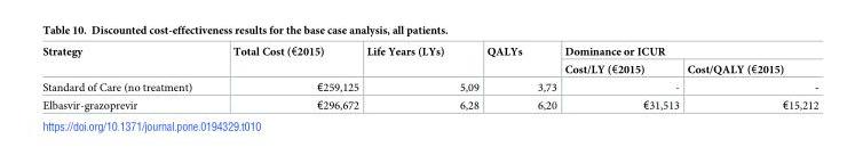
<table><thead><tr><td rowspan="2">Strategy</td><td rowspan="2">Total Cost (€2015)</td><td rowspan="2">Life Years (LYs)</td><td rowspan="2">QALYs</td><td colspan="2">Dominance or ICUR</td></tr><tr><td>Cost/LY (€2015)</td><td>Cost/QALY (€2015)</td></tr></thead><tbody><tr><td>Standard of Care (no treatment)</td><td>€259,125</td><td>5,09</td><td>3,73</td><td>-</td><td>-</td></tr><tr><td>Elbasvir-grazoprevir</td><td>€296,672</td><td>6,28</td><td>6,20</td><td>€31,513</td><td>€15,212</td></tr></tbody></table>